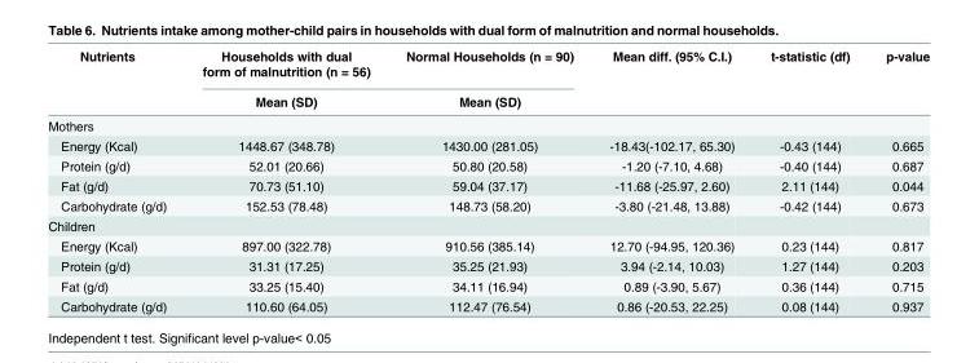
<table><thead><tr><td rowspan="2">Nutrients</td><td rowspan="2">Households with dual form of malnutrition (n = 56) Mean (SD)</td><td rowspan="2">Normal Households (n = 90) Mean (SD)</td><td rowspan="2">Mean diff. (95% C.I.)</td><td rowspan="2">t-statistic (df)</td><td rowspan="2">p-value</td></tr><tr></tr></thead><tbody><tr><td colspan="6">Mothers</td></tr><tr><td>Energy (Kcal)</td><td>1448.67 (348.78)</td><td>1430.00 (281.05)</td><td>-18.43(-102.17, 65.30)</td><td>-0.43 (144)</td><td>0.665</td></tr><tr><td>Protein (g/d)</td><td>52.01 (20.66)</td><td>50.80 (20.58)</td><td>-1.20 (-7.10, 4.68)</td><td>-0.40 (144)</td><td>0.687</td></tr><tr><td>Fat (g/d)</td><td>70.73 (51.10)</td><td>59.04 (37.17)</td><td>-11.68 (-25.97, 2.60)</td><td>2.11 (144)</td><td>0.044</td></tr><tr><td>Carbohydrate (g/d)</td><td>152.53 (78.48)</td><td>148.73 (58.20)</td><td>-3.80 (-21.48, 13.88)</td><td>-0.42 (144)</td><td>0.673</td></tr><tr><td colspan="6">Children</td></tr><tr><td>Energy (Kcal)</td><td>897.00 (322.78)</td><td>910.56 (385.14)</td><td>12.70 (-94.95, 120.36)</td><td>0.23 (144)</td><td>0.817</td></tr><tr><td>Protein (g/d)</td><td>31.31 (17.25)</td><td>35.25 (21.93)</td><td>3.94 (-2.14, 10.03)</td><td>1.27 (144)</td><td>0.203</td></tr><tr><td>Fat (g/d)</td><td>33.25 (15.40)</td><td>34.11 (16.94)</td><td>0.89 (-3.90, 5.67)</td><td>0.36 (144)</td><td>0.715</td></tr><tr><td>Carbohydrate (g/d)</td><td>110.60 (64.05)</td><td>112.47 (76.54)</td><td>0.86 (-20.53, 22.25)</td><td>0.08 (144)</td><td>0.937</td></tr></tbody></table>